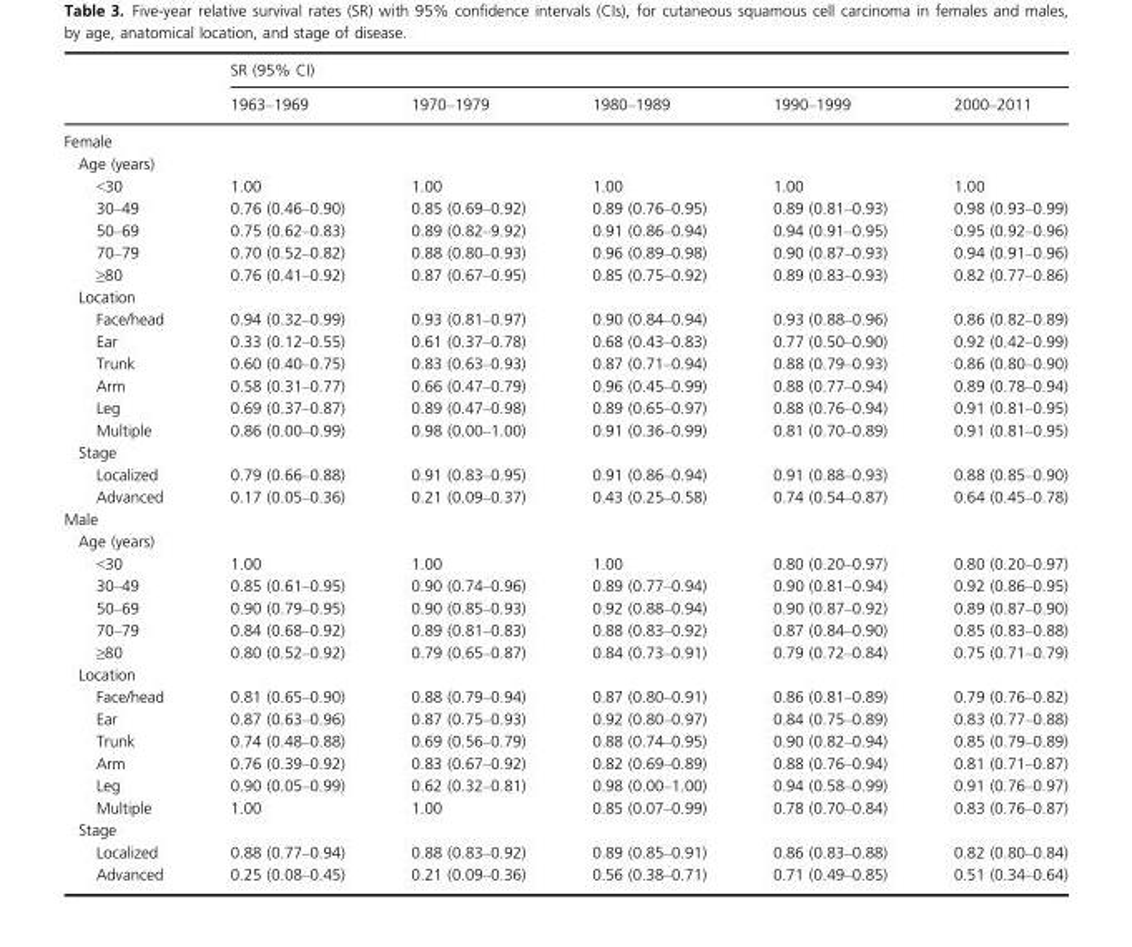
<table><thead><tr><td rowspan="2"></td><td colspan="5">SR (95% CI)</td></tr><tr><td>1963–1969</td><td>1970–1979</td><td>1980–1989</td><td>1990–1999</td><td>2000–2011</td></tr></thead><tbody><tr><td colspan="6">Female</td></tr><tr><td colspan="6">Age (years)</td></tr><tr><td>&lt;30</td><td>1.00</td><td>1.00</td><td>1.00</td><td>1.00</td><td>1.00</td></tr><tr><td>30–49</td><td>0.76 (0.46–0.90)</td><td>0.85 (0.69–0.92)</td><td>0.89 (0.76–0.95)</td><td>0.89 (0.81–0.93)</td><td>0.98 (0.93–0.99)</td></tr><tr><td>50–69</td><td>0.75 (0.62–0.83)</td><td>0.89 (0.82–9.92)</td><td>0.91 (0.86–0.94)</td><td>0.94 (0.91–0.95)</td><td>0.95 (0.92–0.96)</td></tr><tr><td>70–79</td><td>0.70 (0.52–0.82)</td><td>0.88 (0.80–0.93)</td><td>0.96 (0.89–0.98)</td><td>0.90 (0.87–0.93)</td><td>0.94 (0.91–0.96)</td></tr><tr><td>≥80</td><td>0.76 (0.41–0.92)</td><td>0.87 (0.67–0.95)</td><td>0.85 (0.75–0.92)</td><td>0.89 (0.83–0.93)</td><td>0.82 (0.77–0.86)</td></tr><tr><td colspan="6">Location</td></tr><tr><td>Face/head</td><td>0.94 (0.32–0.99)</td><td>0.93 (0.81–0.97)</td><td>0.90 (0.84–0.94)</td><td>0.93 (0.88–0.96)</td><td>0.86 (0.82–0.89)</td></tr><tr><td>Ear</td><td>0.33 (0.12–0.55)</td><td>0.61 (0.37–0.78)</td><td>0.68 (0.43–0.83)</td><td>0.77 (0.50–0.90)</td><td>0.92 (0.42–0.99)</td></tr><tr><td>Trunk</td><td>0.60 (0.40–0.75)</td><td>0.83 (0.63–0.93)</td><td>0.87 (0.71–0.94)</td><td>0.88 (0.79–0.93)</td><td>0.86 (0.80–0.90)</td></tr><tr><td>Arm</td><td>0.58 (0.31–0.77)</td><td>0.66 (0.47–0.79)</td><td>0.96 (0.45–0.99)</td><td>0.88 (0.77–0.94)</td><td>0.89 (0.78–0.94)</td></tr><tr><td>Leg</td><td>0.69 (0.37–0.87)</td><td>0.89 (0.47–0.98)</td><td>0.89 (0.65–0.97)</td><td>0.88 (0.76–0.94)</td><td>0.91 (0.81–0.95)</td></tr><tr><td>Multiple</td><td>0.86 (0.00–0.99)</td><td>0.98 (0.00–1.00)</td><td>0.91 (0.36–0.99)</td><td>0.81 (0.70–0.89)</td><td>0.91 (0.81–0.95)</td></tr><tr><td colspan="6">Stage</td></tr><tr><td>Localized</td><td>0.79 (0.66–0.88)</td><td>0.91 (0.83–0.95)</td><td>0.91 (0.86–0.94)</td><td>0.91 (0.88–0.93)</td><td>0.88 (0.85–0.90)</td></tr><tr><td>Advanced</td><td>0.17 (0.05–0.36)</td><td>0.21 (0.09–0.37)</td><td>0.43 (0.25–0.58)</td><td>0.74 (0.54–0.87)</td><td>0.64 (0.45–0.78)</td></tr><tr><td colspan="6">Male</td></tr><tr><td colspan="6">Age (years)</td></tr><tr><td>&lt;30</td><td>1.00</td><td>1.00</td><td>1.00</td><td>0.80 (0.20–0.97)</td><td>0.80 (0.20–0.97)</td></tr><tr><td>30–49</td><td>0.85 (0.61–0.95)</td><td>0.90 (0.74–0.96)</td><td>0.89 (0.77–0.94)</td><td>0.90 (0.81–0.94)</td><td>0.92 (0.86–0.95)</td></tr><tr><td>50–69</td><td>0.90 (0.79–0.95)</td><td>0.90 (0.85–0.93)</td><td>0.92 (0.88–0.94)</td><td>0.90 (0.87–0.92)</td><td>0.89 (0.87–0.90)</td></tr><tr><td>70–79</td><td>0.84 (0.68–0.92)</td><td>0.89 (0.81–0.83)</td><td>0.88 (0.83–0.92)</td><td>0.87 (0.84–0.90)</td><td>0.85 (0.83–0.88)</td></tr><tr><td>≥80</td><td>0.80 (0.52–0.92)</td><td>0.79 (0.65–0.87)</td><td>0.84 (0.73–0.91)</td><td>0.79 (0.72–0.84)</td><td>0.75 (0.71–0.79)</td></tr><tr><td colspan="6">Location</td></tr><tr><td>Face/head</td><td>0.81 (0.65–0.90)</td><td>0.88 (0.79–0.94)</td><td>0.87 (0.80–0.91)</td><td>0.86 (0.81–0.89)</td><td>0.79 (0.76–0.82)</td></tr><tr><td>Ear</td><td>0.87 (0.63–0.96)</td><td>0.87 (0.75–0.93)</td><td>0.92 (0.80–0.97)</td><td>0.84 (0.75–0.89)</td><td>0.83 (0.77–0.88)</td></tr><tr><td>Trunk</td><td>0.74 (0.48–0.88)</td><td>0.69 (0.56–0.79)</td><td>0.88 (0.74–0.95)</td><td>0.90 (0.82–0.94)</td><td>0.85 (0.79–0.89)</td></tr><tr><td>Arm</td><td>0.76 (0.39–0.92)</td><td>0.83 (0.67–0.92)</td><td>0.82 (0.69–0.89)</td><td>0.88 (0.76–0.94)</td><td>0.81 (0.71–0.87)</td></tr><tr><td>Leg</td><td>0.90 (0.05–0.99)</td><td>0.62 (0.32–0.81)</td><td>0.98 (0.00–1.00)</td><td>0.94 (0.58–0.99)</td><td>0.91 (0.76–0.97)</td></tr><tr><td>Multiple</td><td>1.00</td><td>1.00</td><td>0.85 (0.07–0.99)</td><td>0.78 (0.70–0.84)</td><td>0.83 (0.76–0.87)</td></tr><tr><td colspan="6">Stage</td></tr><tr><td>Localized</td><td>0.88 (0.77–0.94)</td><td>0.88 (0.83–0.92)</td><td>0.89 (0.85–0.91)</td><td>0.86 (0.83–0.88)</td><td>0.82 (0.80–0.84)</td></tr><tr><td>Advanced</td><td>0.25 (0.08–0.45)</td><td>0.21 (0.09–0.36)</td><td>0.56 (0.38–0.71)</td><td>0.71 (0.49–0.85)</td><td>0.51 (0.34–0.64)</td></tr></tbody></table>